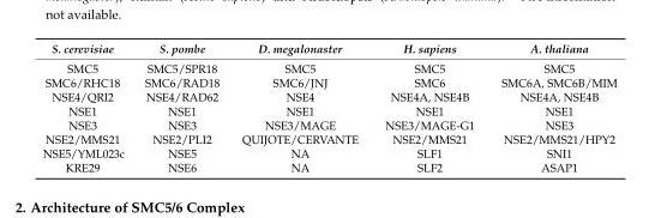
<table><thead><tr><td>S. cerevisiae</td><td>S. pombe</td><td>D. megalonaster</td><td>H. sapiens</td><td>A. thaliana</td></tr></thead><tbody><tr><td>SMC5</td><td>SMC5/SPR18</td><td>SMC5</td><td>SMC5</td><td>SMC5</td></tr><tr><td>SMC6/RHC18</td><td>SMC6/RAD18</td><td>SMC6/JNJ</td><td>SMC6</td><td>SMC6A, SMC6B/MIM</td></tr><tr><td>NSE4/QRI2</td><td>NSE4/RAD62</td><td>NSE4</td><td>NSE4A, NSE4B</td><td>NSE4A, NSE4B</td></tr><tr><td>NSE1</td><td>NSE1</td><td>NSE1</td><td>NSE1</td><td>NSE1</td></tr><tr><td>NSE3</td><td>NSE3</td><td>NSE3/MAGE</td><td>NSE3/MAGE-G1</td><td>NSE3</td></tr><tr><td>NSE2/MMS21</td><td>NSE2/PLI2</td><td>QUIJOTE/CERVANTE</td><td>NSE2/MMS21</td><td>NSE2/MMS21/HPY2</td></tr><tr><td>NSE5/YML023c</td><td>NSE5</td><td>NA</td><td>SLF1</td><td>SNI1</td></tr><tr><td>KRE29</td><td>NSE6</td><td>NA</td><td>SLF2</td><td>ASAP1</td></tr></tbody></table>